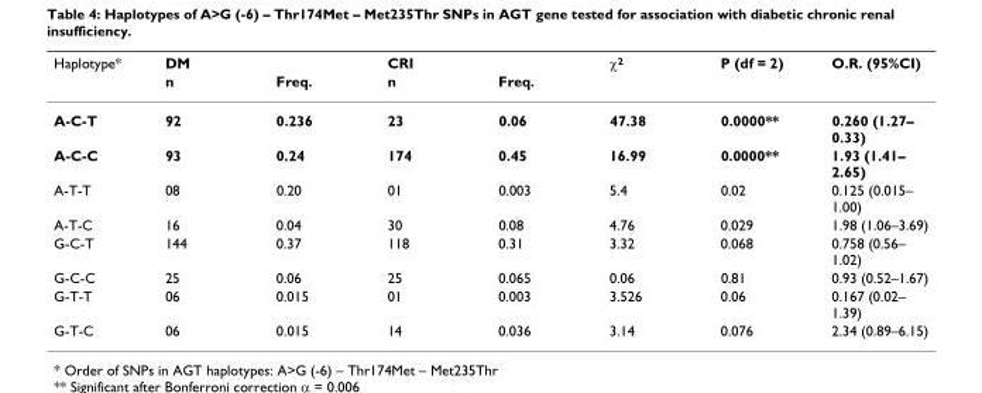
<table><thead><tr><td rowspan="2">Haplotype*</td><td colspan="2">DM</td><td colspan="2">CRI</td><td rowspan="2">χ<sup>2</sup></td><td rowspan="2">P (df = 2)</td><td rowspan="2">O.R. (95%CI)</td></tr><tr><td>n</td><td>Freq.</td><td>n</td><td>Freq.</td></tr></thead><tbody><tr><td>A-C-T</td><td>92</td><td>0.236</td><td>23</td><td>0.06</td><td>47.38</td><td>0.0000**</td><td>0.260 (1.27– 0.33)</td></tr><tr><td>A-C-C</td><td>93</td><td>0.24</td><td>174</td><td>0.45</td><td>16.99</td><td>0.0000**</td><td>1.93 (1.41– 2.65)</td></tr><tr><td>A-T-T</td><td>08</td><td>0.20</td><td>01</td><td>0.003</td><td>5.4</td><td>0.02</td><td>0.125 (0.015– 1.00)</td></tr><tr><td>A-T-C</td><td>16</td><td>0.04</td><td>30</td><td>0.08</td><td>4.76</td><td>0.029</td><td>1.98 (1.06–3.69)</td></tr><tr><td>G-C-T</td><td>144</td><td>0.37</td><td>118</td><td>0.31</td><td>3.32</td><td>0.068</td><td>0.758 (0.56– 1.02)</td></tr><tr><td>G-C-C</td><td>25</td><td>0.06</td><td>25</td><td>0.065</td><td>0.06</td><td>0.81</td><td>0.93 (0.52–1.67)</td></tr><tr><td>G-T-T</td><td>06</td><td>0.015</td><td>01</td><td>0.003</td><td>3.526</td><td>0.06</td><td>0.167 (0.02– 1.39)</td></tr><tr><td>G-T-C</td><td>06</td><td>0.015</td><td>14</td><td>0.036</td><td>3.14</td><td>0.076</td><td>2.34 (0.89–6.15)</td></tr></tbody></table>